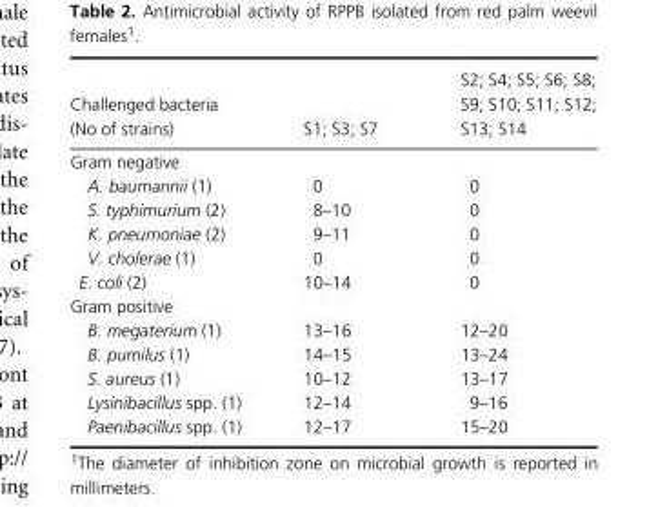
<table><thead><tr><td>Challenged bacteria (No of strains)</td><td>S1; S3; S7</td><td>S2; S4; S5; S6; S8; S9; S10; S11; S12; S13; S14</td></tr></thead><tbody><tr><td colspan="3">Gram negative</td></tr><tr><td>A. baumannii (1)</td><td>0</td><td>0</td></tr><tr><td>S. typhimurium (2)</td><td>8–10</td><td>0</td></tr><tr><td>K. pneumoniae (2)</td><td>9–11</td><td>0</td></tr><tr><td>V. cholerae (1)</td><td>0</td><td>0</td></tr><tr><td>E. coli (2)</td><td>10–14</td><td>0</td></tr><tr><td colspan="3">Gram positive</td></tr><tr><td>B. megaterium (1)</td><td>13–16</td><td>12–20</td></tr><tr><td>B. pumilus (1)</td><td>14–15</td><td>13–24</td></tr><tr><td>S. aureus (1)</td><td>10–12</td><td>13–17</td></tr><tr><td>Lysinibacillus spp. (1)</td><td>12–14</td><td>9–16</td></tr><tr><td>Paenibacillus spp. (1)</td><td>12–17</td><td>15–20</td></tr></tbody></table>